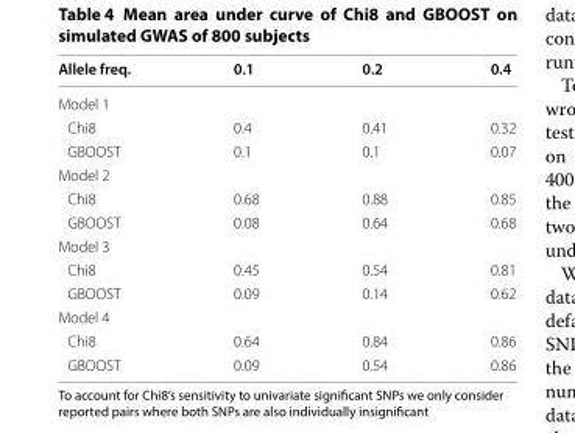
<table><thead><tr><td>Allele freq.</td><td>0.1</td><td>0.2</td><td>0.4</td></tr></thead><tbody><tr><td colspan="4">Model 1</td></tr><tr><td>Chi8</td><td>0.4</td><td>0.41</td><td>0.32</td></tr><tr><td>GBOOST</td><td>0.1</td><td>0.1</td><td>0.07</td></tr><tr><td colspan="4">Model 2</td></tr><tr><td>Chi8</td><td>0.68</td><td>0.88</td><td>0.85</td></tr><tr><td>GBOOST</td><td>0.08</td><td>0.64</td><td>0.68</td></tr><tr><td colspan="4">Model 3</td></tr><tr><td>Chi8</td><td>0.45</td><td>0.54</td><td>0.81</td></tr><tr><td>GBOOST</td><td>0.09</td><td>0.14</td><td>0.62</td></tr><tr><td colspan="4">Model 4</td></tr><tr><td>Chi8</td><td>0.64</td><td>0.84</td><td>0.86</td></tr><tr><td>GBOOST</td><td>0.09</td><td>0.54</td><td>0.86</td></tr></tbody></table>